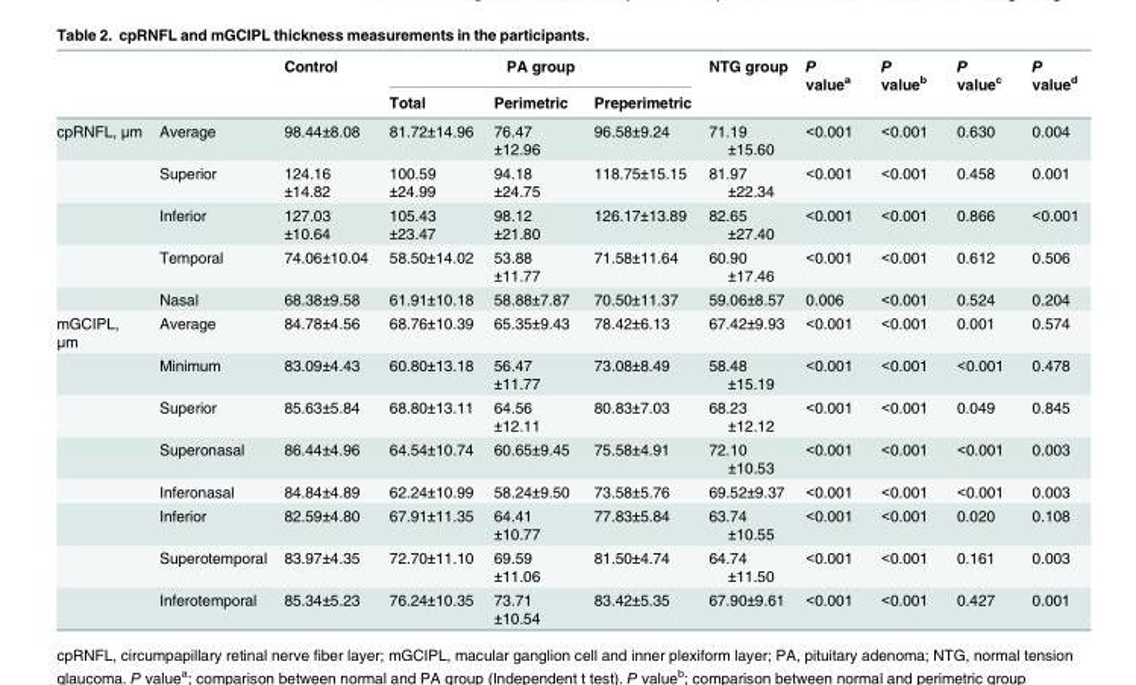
<table><thead><tr><td rowspan="2"></td><td rowspan="2"></td><td rowspan="2">Control</td><td colspan="3">PA group</td><td rowspan="2">NTG group</td><td rowspan="2">P value<sup>a</sup></td><td rowspan="2">P value<sup>b</sup></td><td rowspan="2">P value<sup>c</sup></td><td rowspan="2">P value<sup>d</sup></td></tr><tr><td>Total</td><td>Perimetric</td><td>Preperimetric</td></tr></thead><tbody><tr><td rowspan="5">cpRNFL, μm</td><td>Average</td><td>98.44±8.08</td><td>81.72±14.96</td><td>76.47 ±12.96</td><td>96.58±9.24</td><td>71.19 ±15.60</td><td>&lt;0.001</td><td>&lt;0.001</td><td>0.630</td><td>0.004</td></tr><tr><td>Superior</td><td>124.16 ±14.82</td><td>100.59 ±24.99</td><td>94.18 ±24.75</td><td>118.75±15.15</td><td>81.97 ±22.34</td><td>&lt;0.001</td><td>&lt;0.001</td><td>0.458</td><td>0.001</td></tr><tr><td>Inferior</td><td>127.03 ±10.64</td><td>105.43 ±23.47</td><td>98.12 ±21.80</td><td>126.17±13.89</td><td>82.65 ±27.40</td><td>&lt;0.001</td><td>&lt;0.001</td><td>0.866</td><td>&lt;0.001</td></tr><tr><td>Temporal</td><td>74.06±10.04</td><td>58.50±14.02</td><td>53.88 ±11.77</td><td>71.58±11.64</td><td>60.90 ±17.46</td><td>&lt;0.001</td><td>&lt;0.001</td><td>0.612</td><td>0.506</td></tr><tr><td>Nasal</td><td>68.38±9.58</td><td>61.91±10.18</td><td>58.88±7.87</td><td>70.50±11.37</td><td>59.06±8.57</td><td>0.006</td><td>&lt;0.001</td><td>0.524</td><td>0.204</td></tr><tr><td rowspan="8">mGCIPL, μm</td><td>Average</td><td>84.78±4.56</td><td>68.76±10.39</td><td>65.35±9.43</td><td>78.42±6.13</td><td>67.42±9.93</td><td>&lt;0.001</td><td>&lt;0.001</td><td>0.001</td><td>0.574</td></tr><tr><td>Minimum</td><td>83.09±4.43</td><td>60.80±13.18</td><td>56.47 ±11.77</td><td>73.08±8.49</td><td>58.48 ±15.19</td><td>&lt;0.001</td><td>&lt;0.001</td><td>&lt;0.001</td><td>0.478</td></tr><tr><td>Superior</td><td>85.63±5.84</td><td>68.80±13.11</td><td>64.56 ±12.11</td><td>80.83±7.03</td><td>68.23 ±12.12</td><td>&lt;0.001</td><td>&lt;0.001</td><td>0.049</td><td>0.845</td></tr><tr><td>Superonasal</td><td>86.44±4.96</td><td>64.54±10.74</td><td>60.65±9.45</td><td>75.58±4.91</td><td>72.10 ±10.53</td><td>&lt;0.001</td><td>&lt;0.001</td><td>&lt;0.001</td><td>0.003</td></tr><tr><td>Inferonasal</td><td>84.84±4.89</td><td>62.24±10.99</td><td>58.24±9.50</td><td>73.58±5.76</td><td>69.52±9.37</td><td>&lt;0.001</td><td>&lt;0.001</td><td>&lt;0.001</td><td>0.003</td></tr><tr><td>Inferior</td><td>82.59±4.80</td><td>67.91±11.35</td><td>64.41 ±10.77</td><td>77.83±5.84</td><td>63.74 ±10.55</td><td>&lt;0.001</td><td>&lt;0.001</td><td>0.020</td><td>0.108</td></tr><tr><td>Superotemporal</td><td>83.97±4.35</td><td>72.70±11.10</td><td>69.59 ±11.06</td><td>81.50±4.74</td><td>64.74 ±11.50</td><td>&lt;0.001</td><td>&lt;0.001</td><td>0.161</td><td>0.003</td></tr><tr><td>Inferotemporal</td><td>85.34±5.23</td><td>76.24±10.35</td><td>73.71 ±10.54</td><td>83.42±5.35</td><td>67.90±9.61</td><td>&lt;0.001</td><td>&lt;0.001</td><td>0.427</td><td>0.001</td></tr></tbody></table>